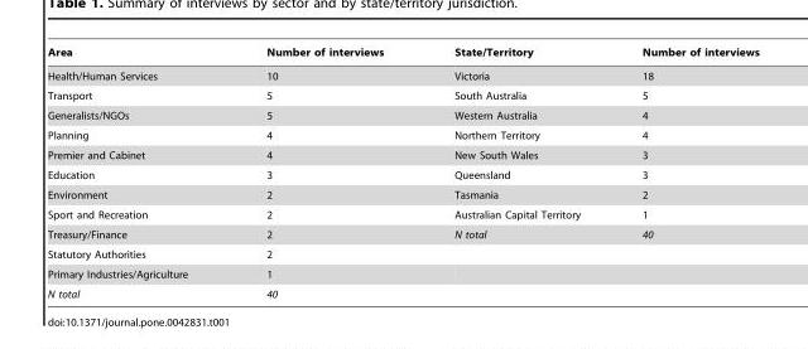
<table><thead><tr><td>Area</td><td>Number of interviews</td><td>State/Territory</td><td>Number of interviews</td></tr></thead><tbody><tr><td>Health/Human Services</td><td>10</td><td>Victoria</td><td>18</td></tr><tr><td>Transport</td><td>5</td><td>South Australia</td><td>5</td></tr><tr><td>Generalists/NGOs</td><td>5</td><td>Western Australia</td><td>4</td></tr><tr><td>Planning</td><td>4</td><td>Northern Territory</td><td>4</td></tr><tr><td>Premier and Cabinet</td><td>4</td><td>New South Wales</td><td>3</td></tr><tr><td>Education</td><td>3</td><td>Queensland</td><td>3</td></tr><tr><td>Environment</td><td>2</td><td>Tasmania</td><td>2</td></tr><tr><td>Sport and Recreation</td><td>2</td><td>Australian Capital Territory</td><td>1</td></tr><tr><td>Treasury/Finance</td><td>2</td><td>N total</td><td>40</td></tr><tr><td>Statutory Authorities</td><td>2</td><td></td><td></td></tr><tr><td>Primary Industries/Agriculture</td><td>1</td><td></td><td></td></tr><tr><td>N total</td><td>40</td><td></td><td></td></tr></tbody></table>